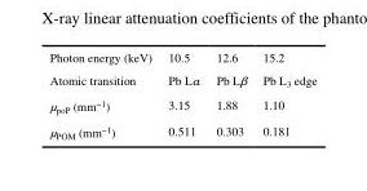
<table><tbody><tr><td>Photon energy (keV)</td><td>10.5</td><td>12.6</td><td>15.2</td></tr><tr><td>Atomic transition</td><td>Pb Lα</td><td>Pb Lβ</td><td>Pb L<sub>3</sub> edge</td></tr><tr><td>µ<sub>poP</sub> (mm<sup>−1</sup>)</td><td>3.15</td><td>1.88</td><td>1.10</td></tr><tr><td>µ<sub>POM</sub> (mm<sup>−1</sup>)</td><td>0.511</td><td>0.303</td><td>0.181</td></tr></tbody></table>